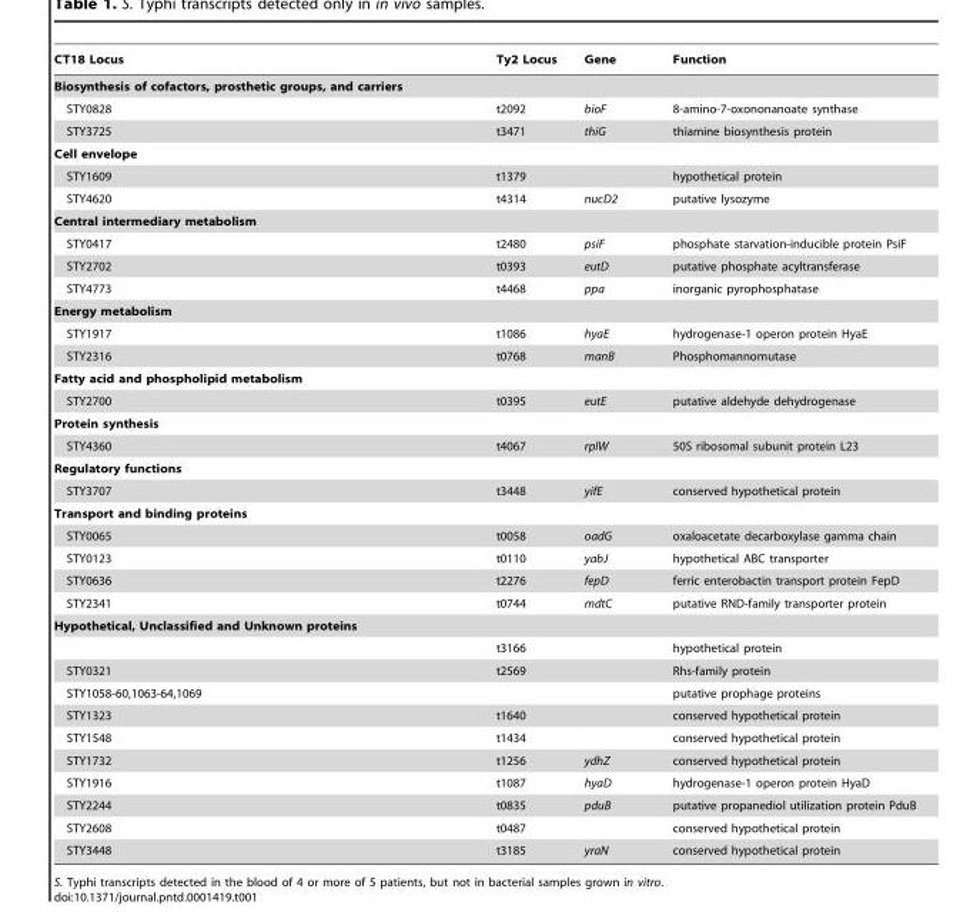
<table><thead><tr><td>CT18 Locus</td><td>Ty2 Locus</td><td>Gene</td><td>Function</td></tr></thead><tbody><tr><td colspan="4">Biosynthesis of cofactors, prosthetic groups, and carriers</td></tr><tr><td>STY0828</td><td>t2092</td><td>bioF</td><td>8-amino-7-oxononanoate synthase</td></tr><tr><td>STY3725</td><td>t3471</td><td>thiG</td><td>thiamine biosynthesis protein</td></tr><tr><td colspan="4">Cell envelope</td></tr><tr><td>STY1609</td><td>t1379</td><td></td><td>hypothetical protein</td></tr><tr><td>STY4620</td><td>t4314</td><td>nucD2</td><td>putative lysozyme</td></tr><tr><td colspan="4">Central intermediary metabolism</td></tr><tr><td>STY0417</td><td>t2480</td><td>psiF</td><td>phosphate starvation-inducible protein PsiF</td></tr><tr><td>STY2702</td><td>t0393</td><td>eutD</td><td>putative phosphate acyltransferase</td></tr><tr><td>STY4773</td><td>t4468</td><td>ppa</td><td>inorganic pyrophosphatase</td></tr><tr><td colspan="4">Energy metabolism</td></tr><tr><td>STY1917</td><td>t1086</td><td>hyaE</td><td>hydrogenase-1 operon protein HyaE</td></tr><tr><td>STY2316</td><td>t0768</td><td>manB</td><td>Phosphomannomutase</td></tr><tr><td colspan="4">Fatty acid and phospholipid metabolism</td></tr><tr><td>STY2700</td><td>t0395</td><td>eutE</td><td>putative aldehyde dehydrogenase</td></tr><tr><td colspan="4">Protein synthesis</td></tr><tr><td>STY4360</td><td>t4067</td><td>rplW</td><td>50S ribosomal subunit protein L23</td></tr><tr><td colspan="4">Regulatory functions</td></tr><tr><td>STY3707</td><td>t3448</td><td>yifE</td><td>conserved hypothetical protein</td></tr><tr><td colspan="4">Transport and binding proteins</td></tr><tr><td>STY0065</td><td>t0058</td><td>oadG</td><td>oxaloacetate decarboxylase gamma chain</td></tr><tr><td>STY0123</td><td>t0110</td><td>yabJ</td><td>hypothetical ABC transporter</td></tr><tr><td>STY0636</td><td>t2276</td><td>fepD</td><td>ferric enterobactin transport protein FepD</td></tr><tr><td>STY2341</td><td>t0744</td><td>mdtC</td><td>putative RND-family transporter protein</td></tr><tr><td colspan="4">Hypothetical, Unclassified and Unknown proteins</td></tr><tr><td></td><td>t3166</td><td></td><td>hypothetical protein</td></tr><tr><td>STY0321</td><td>t2569</td><td></td><td>Rhs-family protein</td></tr><tr><td>STY1058-60,1063-64,1069</td><td></td><td></td><td>putative prophage proteins</td></tr><tr><td>STY1323</td><td>t1640</td><td></td><td>conserved hypothetical protein</td></tr><tr><td>STY1548</td><td>t1434</td><td></td><td>conserved hypothetical protein</td></tr><tr><td>STY1732</td><td>t1256</td><td>ydhZ</td><td>conserved hypothetical protein</td></tr><tr><td>STY1916</td><td>t1087</td><td>hyaD</td><td>hydrogenase-1 operon protein HyaD</td></tr><tr><td>STY2244</td><td>t0835</td><td>pduB</td><td>putative propanediol utilization protein PduB</td></tr><tr><td>STY2608</td><td>t0487</td><td></td><td>conserved hypothetical protein</td></tr><tr><td>STY3448</td><td>t3185</td><td>yraN</td><td>conserved hypothetical protein</td></tr></tbody></table>